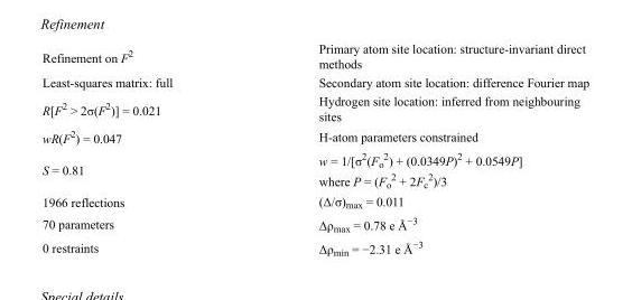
<table><tbody><tr><td>Refinement on F<sup>2</sup></td><td>Primary atom site location: structure-invariant direct methods</td></tr><tr><td>Least-squares matrix: full</td><td>Secondary atom site location: difference Fourier map</td></tr><tr><td>R[F<sup>2</sup> &gt; 2σ(F<sup>2</sup>)] = 0.021</td><td>Hydrogen site location: inferred from neighbouring sites</td></tr><tr><td>wR(F<sup>2</sup>) = 0.047</td><td>H-atom parameters constrained</td></tr><tr><td>S = 0.81</td><td>w = 1/[σ<sup>2</sup>(F<sub>o</sub> <sup>2</sup>) + (0.0349P)<sup>2</sup> + 0.0549P] where P = (F<sub>o</sub> <sup>2</sup> + 2F<sub>c</sub> <sup>2</sup>)/3</td></tr><tr><td>1966 reflections</td><td>(Δ/σ)<sub>max</sub> = 0.011</td></tr><tr><td>70 parameters</td><td>Δρ<sub>max</sub> = 0.78 e Å<sup>−3</sup></td></tr><tr><td>0 restraints</td><td>Δρ<sub>min</sub> = −2.31 e Å<sup>−3</sup></td></tr></tbody></table>